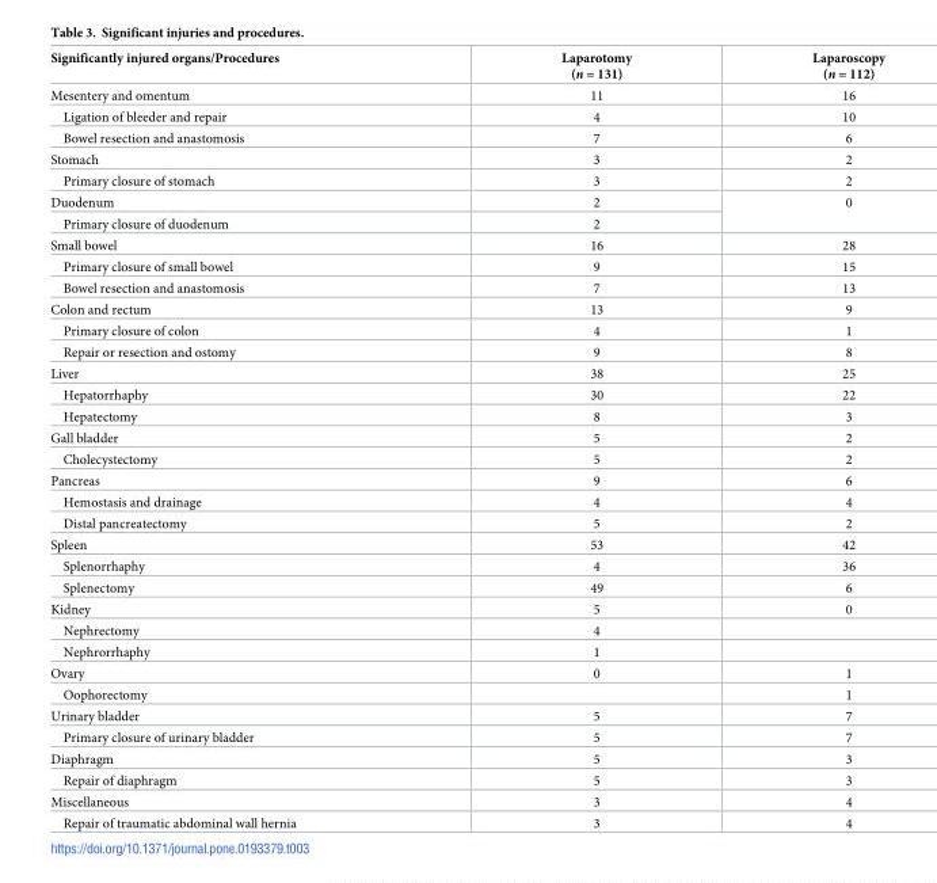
<table><thead><tr><td>Significantly injured organs/Procedures</td><td>Laparotomy (n = 131)</td><td>Laparoscopy (n = 112)</td></tr></thead><tbody><tr><td>Mesentery and omentum</td><td>11</td><td>16</td></tr><tr><td>Ligation of bleeder and repair</td><td>4</td><td>10</td></tr><tr><td>Bowel resection and anastomosis</td><td>7</td><td>6</td></tr><tr><td>Stomach</td><td>3</td><td>2</td></tr><tr><td>Primary closure of stomach</td><td>3</td><td>2</td></tr><tr><td>Duodenum</td><td>2</td><td rowspan="2">0</td></tr><tr><td>Primary closure of duodenum</td><td>2</td></tr><tr><td>Small bowel</td><td>16</td><td>28</td></tr><tr><td>Primary closure of small bowel</td><td>9</td><td>15</td></tr><tr><td>Bowel resection and anastomosis</td><td>7</td><td>13</td></tr><tr><td>Colon and rectum</td><td>13</td><td>9</td></tr><tr><td>Primary closure of colon</td><td>4</td><td>1</td></tr><tr><td>Repair or resection and ostomy</td><td>9</td><td>8</td></tr><tr><td>Liver</td><td>38</td><td>25</td></tr><tr><td>Hepatorrhaphy</td><td>30</td><td>22</td></tr><tr><td>Hepatectomy</td><td>8</td><td>3</td></tr><tr><td>Gall bladder</td><td>5</td><td>2</td></tr><tr><td>Cholecystectomy</td><td>5</td><td>2</td></tr><tr><td>Pancreas</td><td>9</td><td>6</td></tr><tr><td>Hemostasis and drainage</td><td>4</td><td>4</td></tr><tr><td>Distal pancreatectomy</td><td>5</td><td>2</td></tr><tr><td>Spleen</td><td>53</td><td>42</td></tr><tr><td>Splenorrhaphy</td><td>4</td><td>36</td></tr><tr><td>Splenectomy</td><td>49</td><td>6</td></tr><tr><td>Kidney</td><td>5</td><td>0</td></tr><tr><td>Nephrectomy</td><td>4</td><td></td></tr><tr><td>Nephrorrhaphy</td><td>1</td><td></td></tr><tr><td>Ovary</td><td>0</td><td>1</td></tr><tr><td>Oophorectomy</td><td></td><td>1</td></tr><tr><td>Urinary bladder</td><td>5</td><td>7</td></tr><tr><td>Primary closure of urinary bladder</td><td>5</td><td>7</td></tr><tr><td>Diaphragm</td><td>5</td><td>3</td></tr><tr><td>Repair of diaphragm</td><td>5</td><td>3</td></tr><tr><td>Miscellaneous</td><td>3</td><td>4</td></tr><tr><td>Repair of traumatic abdominal wall hernia</td><td>3</td><td>4</td></tr></tbody></table>